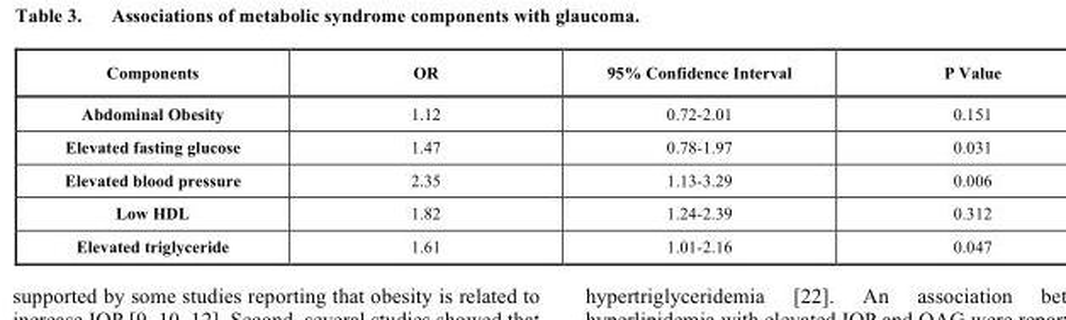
<table><thead><tr><td>Components</td><td>OR</td><td>95% Confidence Interval</td><td>P Value</td></tr></thead><tbody><tr><td>Abdominal Obesity</td><td>1.12</td><td>0.72-2.01</td><td>0.151</td></tr><tr><td>Elevated fasting glucose</td><td>1.47</td><td>0.78-1.97</td><td>0.031</td></tr><tr><td>Elevated blood pressure</td><td>2.35</td><td>1.13-3.29</td><td>0.006</td></tr><tr><td>Low HDL</td><td>1.82</td><td>1.24-2.39</td><td>0.312</td></tr><tr><td>Elevated triglyceride</td><td>1.61</td><td>1.01-2.16</td><td>0.047</td></tr></tbody></table>